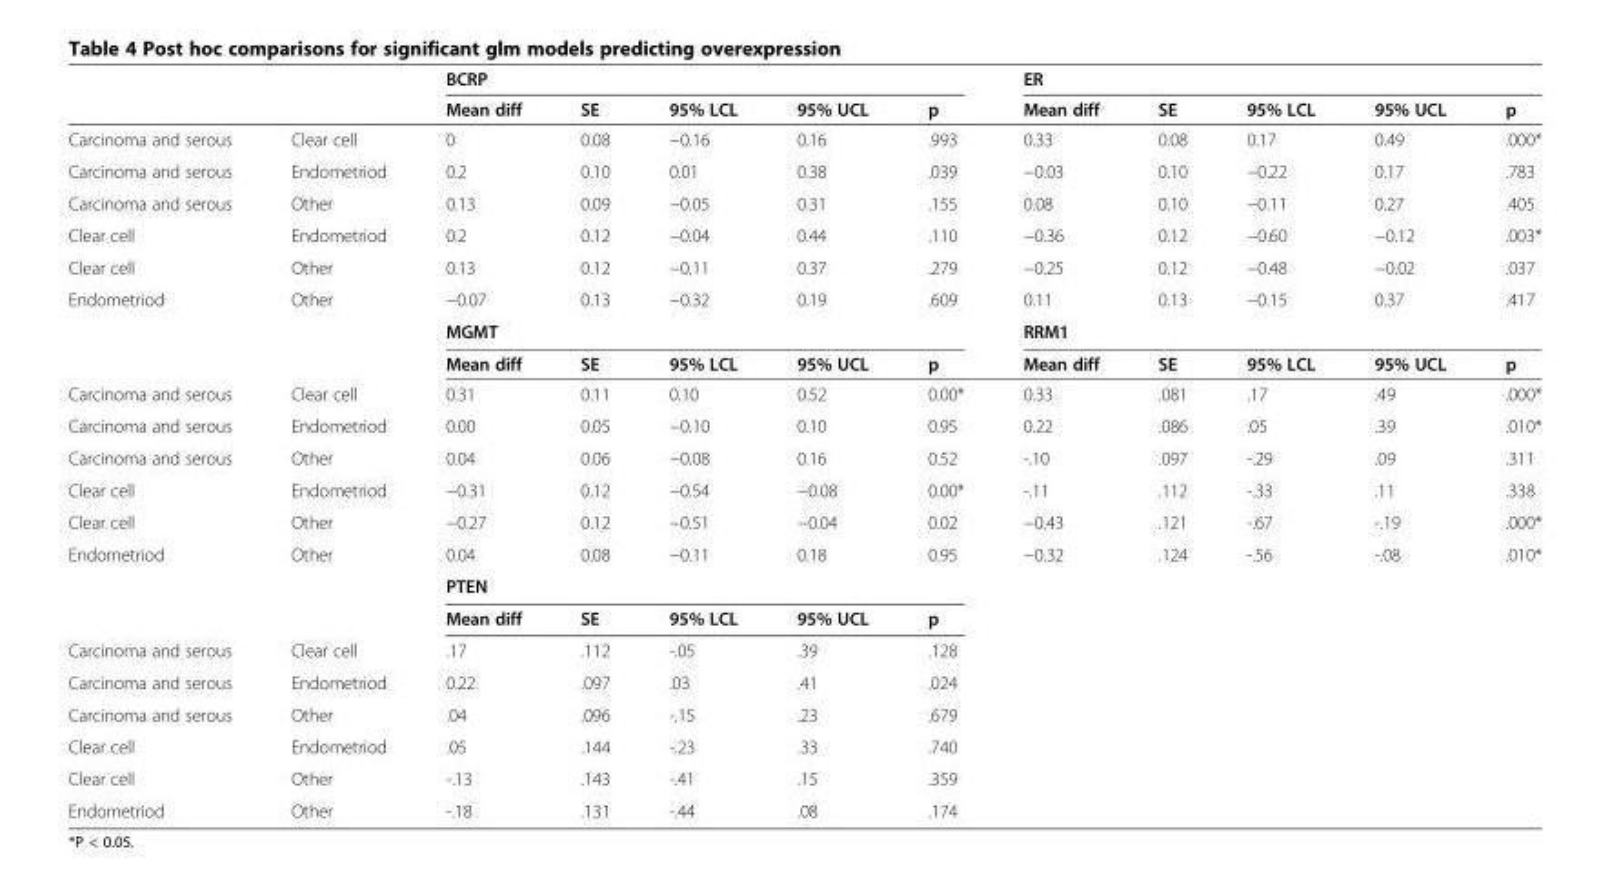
<table><thead><tr><td rowspan="2"></td><td rowspan="2"></td><td colspan="5">BCRP</td><td colspan="5">ER</td></tr><tr><td>Mean diff</td><td>SE</td><td>95% LCL</td><td>95% UCL</td><td>p</td><td>Mean diff</td><td>SE</td><td>95% LCL</td><td>95% UCL</td><td>p</td></tr></thead><tbody><tr><td>Carcinoma and serous</td><td>Clear cell</td><td>0</td><td>0.08</td><td>−0.16</td><td>0.16</td><td>.993</td><td>0.33</td><td>0.08</td><td>0.17</td><td>0.49</td><td>.000*</td></tr><tr><td>Carcinoma and serous</td><td>Endometriod</td><td>0.2</td><td>0.10</td><td>0.01</td><td>0.38</td><td>.039</td><td>−0.03</td><td>0.10</td><td>−0.22</td><td>0.17</td><td>.783</td></tr><tr><td>Carcinoma and serous</td><td>Other</td><td>0.13</td><td>0.09</td><td>−0.05</td><td>0.31</td><td>.155</td><td>0.08</td><td>0.10</td><td>−0.11</td><td>0.27</td><td>.405</td></tr><tr><td>Clear cell</td><td>Endometriod</td><td>0.2</td><td>0.12</td><td>−0.04</td><td>0.44</td><td>.110</td><td>−0.36</td><td>0.12</td><td>−0.60</td><td>−0.12</td><td>.003*</td></tr><tr><td>Clear cell</td><td>Other</td><td>0.13</td><td>0.12</td><td>−0.11</td><td>0.37</td><td>.279</td><td>−0.25</td><td>0.12</td><td>−0.48</td><td>−0.02</td><td>.037</td></tr><tr><td rowspan="3">Endometriod</td><td>Other</td><td>−0.07</td><td>0.13</td><td>−0.32</td><td>0.19</td><td>.609</td><td>0.11</td><td>0.13</td><td>−0.15</td><td>0.37</td><td>.417</td></tr><tr><td></td><td colspan="5">MGMT</td><td colspan="5">RRM1</td></tr><tr><td></td><td>Mean diff</td><td>SE</td><td>95% LCL</td><td>95% UCL</td><td>p</td><td>Mean diff</td><td>SE</td><td>95% LCL</td><td>95% UCL</td><td>p</td></tr><tr><td>Carcinoma and serous</td><td>Clear cell</td><td>0.31</td><td>0.11</td><td>0.10</td><td>0.52</td><td>0.00*</td><td>0.33</td><td>.081</td><td>.17</td><td>.49</td><td>.000*</td></tr><tr><td>Carcinoma and serous</td><td>Endometriod</td><td>0.00</td><td>0.05</td><td>−0.10</td><td>0.10</td><td>0.95</td><td>0.22</td><td>.086</td><td>.05</td><td>.39</td><td>.010*</td></tr><tr><td>Carcinoma and serous</td><td>Other</td><td>0.04</td><td>0.06</td><td>−0.08</td><td>0.16</td><td>0.52</td><td>-.10</td><td>.097</td><td>-.29</td><td>.09</td><td>.311</td></tr><tr><td>Clear cell</td><td>Endometriod</td><td>−0.31</td><td>0.12</td><td>−0.54</td><td>−0.08</td><td>0.00*</td><td>-.11</td><td>.112</td><td>-.33</td><td>.11</td><td>.338</td></tr><tr><td>Clear cell</td><td>Other</td><td>−0.27</td><td>0.12</td><td>−0.51</td><td>−0.04</td><td>0.02</td><td>−0.43</td><td>.121</td><td>-.67</td><td>-.19</td><td>.000*</td></tr><tr><td rowspan="3">Endometriod</td><td>Other</td><td>0.04</td><td>0.08</td><td>−0.11</td><td>0.18</td><td>0.95</td><td>−0.32</td><td>.124</td><td>-.56</td><td>-.08</td><td>.010*</td></tr><tr><td></td><td colspan="5">PTEN</td><td></td><td></td><td></td><td></td><td></td></tr><tr><td></td><td>Mean diff</td><td>SE</td><td>95% LCL</td><td>95% UCL</td><td>p</td><td></td><td></td><td></td><td></td><td></td></tr><tr><td>Carcinoma and serous</td><td>Clear cell</td><td>.17</td><td>.112</td><td>-.05</td><td>.39</td><td>.128</td><td></td><td></td><td></td><td></td><td></td></tr><tr><td>Carcinoma and serous</td><td>Endometriod</td><td>0.22</td><td>.097</td><td>.03</td><td>.41</td><td>.024</td><td></td><td></td><td></td><td></td><td></td></tr><tr><td>Carcinoma and serous</td><td>Other</td><td>.04</td><td>.096</td><td>-.15</td><td>.23</td><td>.679</td><td></td><td></td><td></td><td></td><td></td></tr><tr><td>Clear cell</td><td>Endometriod</td><td>.05</td><td>.144</td><td>-.23</td><td>.33</td><td>.740</td><td></td><td></td><td></td><td></td><td></td></tr><tr><td>Clear cell</td><td>Other</td><td>-.13</td><td>.143</td><td>-.41</td><td>.15</td><td>.359</td><td></td><td></td><td></td><td></td><td></td></tr><tr><td>Endometriod</td><td>Other</td><td>-.18</td><td>.131</td><td>-.44</td><td>.08</td><td>.174</td><td></td><td></td><td></td><td></td><td></td></tr></tbody></table>